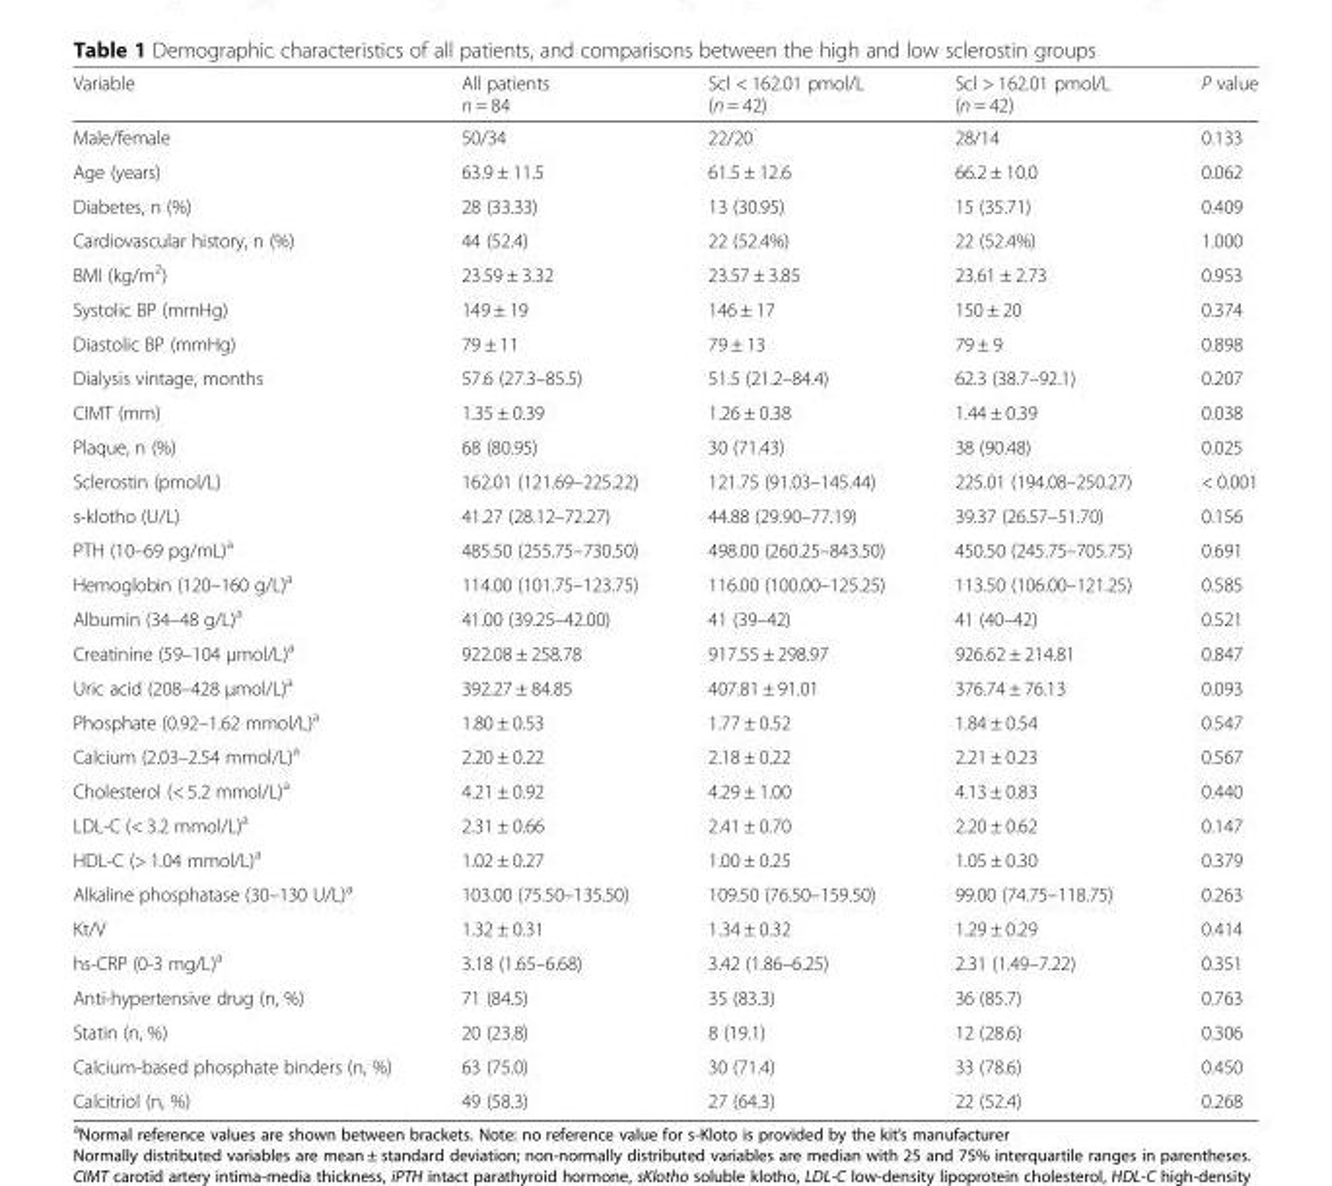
<table><thead><tr><td>Variable</td><td>All patients n = 84</td><td>Scl &lt; 162.01 pmol/L (n = 42)</td><td>Scl &gt; 162.01 pmol/L (n = 42)</td><td>P value</td></tr></thead><tbody><tr><td>Male/female</td><td>50/34</td><td>22/20</td><td>28/14</td><td>0.133</td></tr><tr><td>Age (years)</td><td>63.9 ± 11.5</td><td>61.5 ± 12.6</td><td>66.2 ± 10.0</td><td>0.062</td></tr><tr><td>Diabetes, n (%)</td><td>28 (33.33)</td><td>13 (30.95)</td><td>15 (35.71)</td><td>0.409</td></tr><tr><td>Cardiovascular history, n (%)</td><td>44 (52.4)</td><td>22 (52.4%)</td><td>22 (52.4%)</td><td>1.000</td></tr><tr><td>BMI (kg/m<sup>2</sup>)</td><td>23.59 ± 3.32</td><td>23.57 ± 3.85</td><td>23.61 ± 2.73</td><td>0.953</td></tr><tr><td>Systolic BP (mmHg)</td><td>149 ± 19</td><td>146 ± 17</td><td>150 ± 20</td><td>0.374</td></tr><tr><td>Diastolic BP (mmHg)</td><td>79 ± 11</td><td>79 ± 13</td><td>79 ± 9</td><td>0.898</td></tr><tr><td>Dialysis vintage, months</td><td>57.6 (27.3–85.5)</td><td>51.5 (21.2–84.4)</td><td>62.3 (38.7–92.1)</td><td>0.207</td></tr><tr><td>CIMT (mm)</td><td>1.35 ± 0.39</td><td>1.26 ± 0.38</td><td>1.44 ± 0.39</td><td>0.038</td></tr><tr><td>Plaque, n (%)</td><td>68 (80.95)</td><td>30 (71.43)</td><td>38 (90.48)</td><td>0.025</td></tr><tr><td>Sclerostin (pmol/L)</td><td>162.01 (121.69–225.22)</td><td>121.75 (91.03–145.44)</td><td>225.01 (194.08–250.27)</td><td>&lt; 0.001</td></tr><tr><td>s-klotho (U/L)</td><td>41.27 (28.12–72.27)</td><td>44.88 (29.90–77.19)</td><td>39.37 (26.57–51.70)</td><td>0.156</td></tr><tr><td>PTH (10–69 pg/mL)<sup>a</sup></td><td>485.50 (255.75–730.50)</td><td>498.00 (260.25–843.50)</td><td>450.50 (245.75–705.75)</td><td>0.691</td></tr><tr><td>Hemoglobin (120–160 g/L)<sup>a</sup></td><td>114.00 (101.75–123.75)</td><td>116.00 (100.00–125.25)</td><td>113.50 (106.00–121.25)</td><td>0.585</td></tr><tr><td>Albumin (34–48 g/L)<sup>a</sup></td><td>41.00 (39.25–42.00)</td><td>41 (39–42)</td><td>41 (40–42)</td><td>0.521</td></tr><tr><td>Creatinine (59–104 μmol/L)<sup>a</sup></td><td>922.08 ± 258.78</td><td>917.55 ± 298.97</td><td>926.62 ± 214.81</td><td>0.847</td></tr><tr><td>Uric acid (208–428 μmol/L)<sup>a</sup></td><td>392.27 ± 84.85</td><td>407.81 ± 91.01</td><td>376.74 ± 76.13</td><td>0.093</td></tr><tr><td>Phosphate (0.92–1.62 mmol/L)<sup>a</sup></td><td>1.80 ± 0.53</td><td>1.77 ± 0.52</td><td>1.84 ± 0.54</td><td>0.547</td></tr><tr><td>Calcium (2.03–2.54 mmol/L)<sup>a</sup></td><td>2.20 ± 0.22</td><td>2.18 ± 0.22</td><td>2.21 ± 0.23</td><td>0.567</td></tr><tr><td>Cholesterol (&lt; 5.2 mmol/L)<sup>a</sup></td><td>4.21 ± 0.92</td><td>4.29 ± 1.00</td><td>4.13 ± 0.83</td><td>0.440</td></tr><tr><td>LDL-C (&lt; 3.2 mmol/L)<sup>a</sup></td><td>2.31 ± 0.66</td><td>2.41 ± 0.70</td><td>2.20 ± 0.62</td><td>0.147</td></tr><tr><td>HDL-C (&gt; 1.04 mmol/L)<sup>a</sup></td><td>1.02 ± 0.27</td><td>1.00 ± 0.25</td><td>1.05 ± 0.30</td><td>0.379</td></tr><tr><td>Alkaline phosphatase (30–130 U/L)<sup>a</sup></td><td>103.00 (75.50–135.50)</td><td>109.50 (76.50–159.50)</td><td>99.00 (74.75–118.75)</td><td>0.263</td></tr><tr><td>Kt/V</td><td>1.32 ± 0.31</td><td>1.34 ± 0.32</td><td>1.29 ± 0.29</td><td>0.414</td></tr><tr><td>hs-CRP (0-3 mg/L)<sup>a</sup></td><td>3.18 (1.65–6.68)</td><td>3.42 (1.86–6.25)</td><td>2.31 (1.49–7.22)</td><td>0.351</td></tr><tr><td>Anti-hypertensive drug (n, %)</td><td>71 (84.5)</td><td>35 (83.3)</td><td>36 (85.7)</td><td>0.763</td></tr><tr><td>Statin (n, %)</td><td>20 (23.8)</td><td>8 (19.1)</td><td>12 (28.6)</td><td>0.306</td></tr><tr><td>Calcium-based phosphate binders (n, %)</td><td>63 (75.0)</td><td>30 (71.4)</td><td>33 (78.6)</td><td>0.450</td></tr><tr><td>Calcitriol (n, %)</td><td>49 (58.3)</td><td>27 (64.3)</td><td>22 (52.4)</td><td>0.268</td></tr></tbody></table>